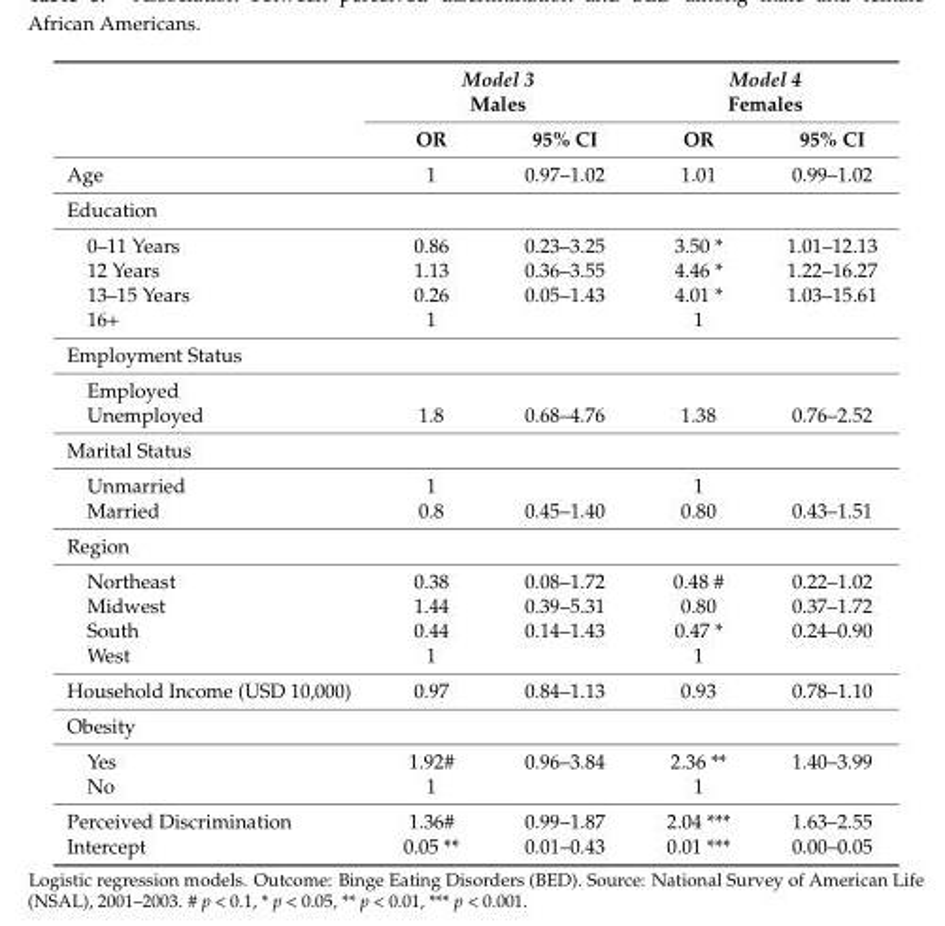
<table><thead><tr><td rowspan="2"></td><td colspan="2">Model 3 Males</td><td colspan="2">Model 4 Females</td></tr><tr><td>OR</td><td>95% CI</td><td>OR</td><td>95% CI</td></tr></thead><tbody><tr><td>Age</td><td>1</td><td>0.97–1.02</td><td>1.01</td><td>0.99–1.02</td></tr><tr><td colspan="5">Education</td></tr><tr><td>0–11 Years</td><td>0.86</td><td>0.23–3.25</td><td>3.50 *</td><td>1.01–12.13</td></tr><tr><td>12 Years</td><td>1.13</td><td>0.36–3.55</td><td>4.46 *</td><td>1.22–16.27</td></tr><tr><td>13–15 Years</td><td>0.26</td><td>0.05–1.43</td><td>4.01 *</td><td>1.03–15.61</td></tr><tr><td>16+</td><td>1</td><td></td><td>1</td><td></td></tr><tr><td colspan="5">Employment Status</td></tr><tr><td colspan="5">Employed</td></tr><tr><td>Unemployed</td><td>1.8</td><td>0.68–4.76</td><td>1.38</td><td>0.76–2.52</td></tr><tr><td colspan="5">Marital Status</td></tr><tr><td>Unmarried</td><td>1</td><td></td><td>1</td><td></td></tr><tr><td>Married</td><td>0.8</td><td>0.45–1.40</td><td>0.80</td><td>0.43–1.51</td></tr><tr><td colspan="5">Region</td></tr><tr><td>Northeast</td><td>0.38</td><td>0.08–1.72</td><td>0.48 #</td><td>0.22–1.02</td></tr><tr><td>Midwest</td><td>1.44</td><td>0.39–5.31</td><td>0.80</td><td>0.37–1.72</td></tr><tr><td>South</td><td>0.44</td><td>0.14–1.43</td><td>0.47 *</td><td>0.24–0.90</td></tr><tr><td>West</td><td>1</td><td></td><td>1</td><td></td></tr><tr><td>Household Income (USD 10,000)</td><td>0.97</td><td>0.84–1.13</td><td>0.93</td><td>0.78–1.10</td></tr><tr><td colspan="5">Obesity</td></tr><tr><td>Yes</td><td>1.92#</td><td>0.96–3.84</td><td>2.36 **</td><td>1.40–3.99</td></tr><tr><td>No</td><td>1</td><td></td><td>1</td><td></td></tr><tr><td>Perceived Discrimination</td><td>1.36#</td><td>0.99–1.87</td><td>2.04 ***</td><td>1.63–2.55</td></tr><tr><td>Intercept</td><td>0.05 **</td><td>0.01–0.43</td><td>0.01 ***</td><td>0.00–0.05</td></tr></tbody></table>